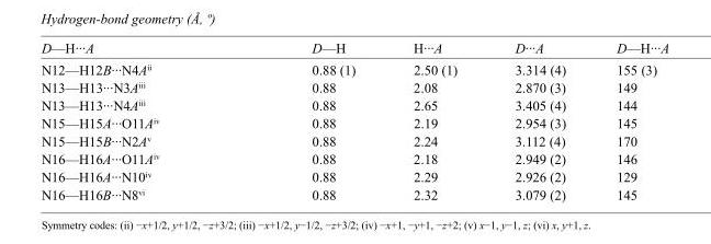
<table><tbody><tr><td>D—H···A</td><td>D—H</td><td>H···A</td><td>D···A</td><td>D—H···A</td></tr><tr><td>N12—H12B···N4A<sup>ii</sup></td><td>0.88 (1)</td><td>2.50 (1)</td><td>3.314 (4)</td><td>155 (3)</td></tr><tr><td>N13—H13···N3A<sup>iii</sup></td><td>0.88</td><td>2.08</td><td>2.870 (3)</td><td>149</td></tr><tr><td>N13—H13···N4A<sup>iii</sup></td><td>0.88</td><td>2.65</td><td>3.405 (4)</td><td>144</td></tr><tr><td>N15—H15A···O11A<sup>iv</sup></td><td>0.88</td><td>2.19</td><td>2.954 (3)</td><td>145</td></tr><tr><td>N15—H15B···N2A<sup>v</sup></td><td>0.88</td><td>2.24</td><td>3.112 (4)</td><td>170</td></tr><tr><td>N16—H16A···O11A<sup>iv</sup></td><td>0.88</td><td>2.18</td><td>2.949 (2)</td><td>146</td></tr><tr><td>N16—H16A···N10<sup>iv</sup></td><td>0.88</td><td>2.29</td><td>2.926 (2)</td><td>129</td></tr><tr><td>N16—H16B···N8<sup>vi</sup></td><td>0.88</td><td>2.32</td><td>3.079 (2)</td><td>145</td></tr></tbody></table>